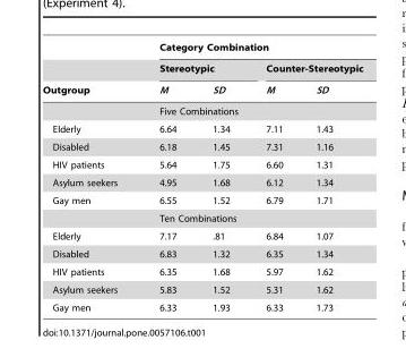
<table><thead><tr><td rowspan="3">Outgroup</td><td colspan="4">Category Combination</td></tr><tr><td colspan="2">Stereotypic</td><td colspan="2">Counter-Stereotypic</td></tr><tr><td>M</td><td>SD</td><td>M</td><td>SD</td></tr></thead><tbody><tr><td></td><td colspan="4">Five Combinations</td></tr><tr><td>Elderly</td><td>6.64</td><td>1.34</td><td>7.11</td><td>1.43</td></tr><tr><td>Disabled</td><td>6.18</td><td>1.45</td><td>7.31</td><td>1.16</td></tr><tr><td>HIV patients</td><td>5.64</td><td>1.75</td><td>6.60</td><td>1.31</td></tr><tr><td>Asylum seekers</td><td>4.95</td><td>1.68</td><td>6.12</td><td>1.34</td></tr><tr><td rowspan="2">Gay men</td><td>6.55</td><td>1.52</td><td>6.79</td><td>1.71</td></tr><tr><td colspan="4">Ten Combinations</td></tr><tr><td>Elderly</td><td>7.17</td><td>.81</td><td>6.84</td><td>1.07</td></tr><tr><td>Disabled</td><td>6.83</td><td>1.32</td><td>6.35</td><td>1.34</td></tr><tr><td>HIV patients</td><td>6.35</td><td>1.68</td><td>5.97</td><td>1.62</td></tr><tr><td>Asylum seekers</td><td>5.83</td><td>1.52</td><td>5.31</td><td>1.62</td></tr><tr><td>Gay men</td><td>6.33</td><td>1.93</td><td>6.33</td><td>1.73</td></tr></tbody></table>